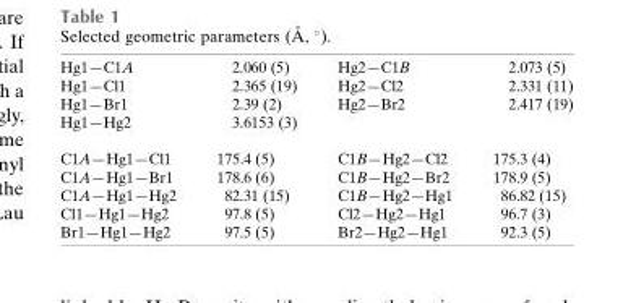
<table><tbody><tr><td>Hg1—C1A</td><td>2.060 (5)</td><td>Hg2—C1B</td><td>2.073 (5)</td></tr><tr><td>Hg1—Cl1</td><td>2.365 (19)</td><td>Hg2—Cl2</td><td>2.331 (11)</td></tr><tr><td>Hg1—Br1</td><td>2.39 (2)</td><td>Hg2—Br2</td><td>2.417 (19)</td></tr><tr><td>Hg1—Hg2</td><td>3.6153 (3)</td><td></td><td></td></tr><tr><td>C1A—Hg1—Cl1</td><td>175.4 (5)</td><td>C1B—Hg2—Cl2</td><td>175.3 (4)</td></tr><tr><td>C1A—Hg1—Br1</td><td>178.6 (6)</td><td>C1B—Hg2—Br2</td><td>178.9 (5)</td></tr><tr><td>C1A—Hg1—Hg2</td><td>82.31 (15)</td><td>C1B—Hg2—Hg1</td><td>86.82 (15)</td></tr><tr><td>Cl1—Hg1—Hg2</td><td>97.8 (5)</td><td>Cl2—Hg2—Hg1</td><td>96.7 (3)</td></tr><tr><td>Br1—Hg1—Hg2</td><td>97.5 (5)</td><td>Br2—Hg2—Hg1</td><td>92.3 (5)</td></tr></tbody></table>